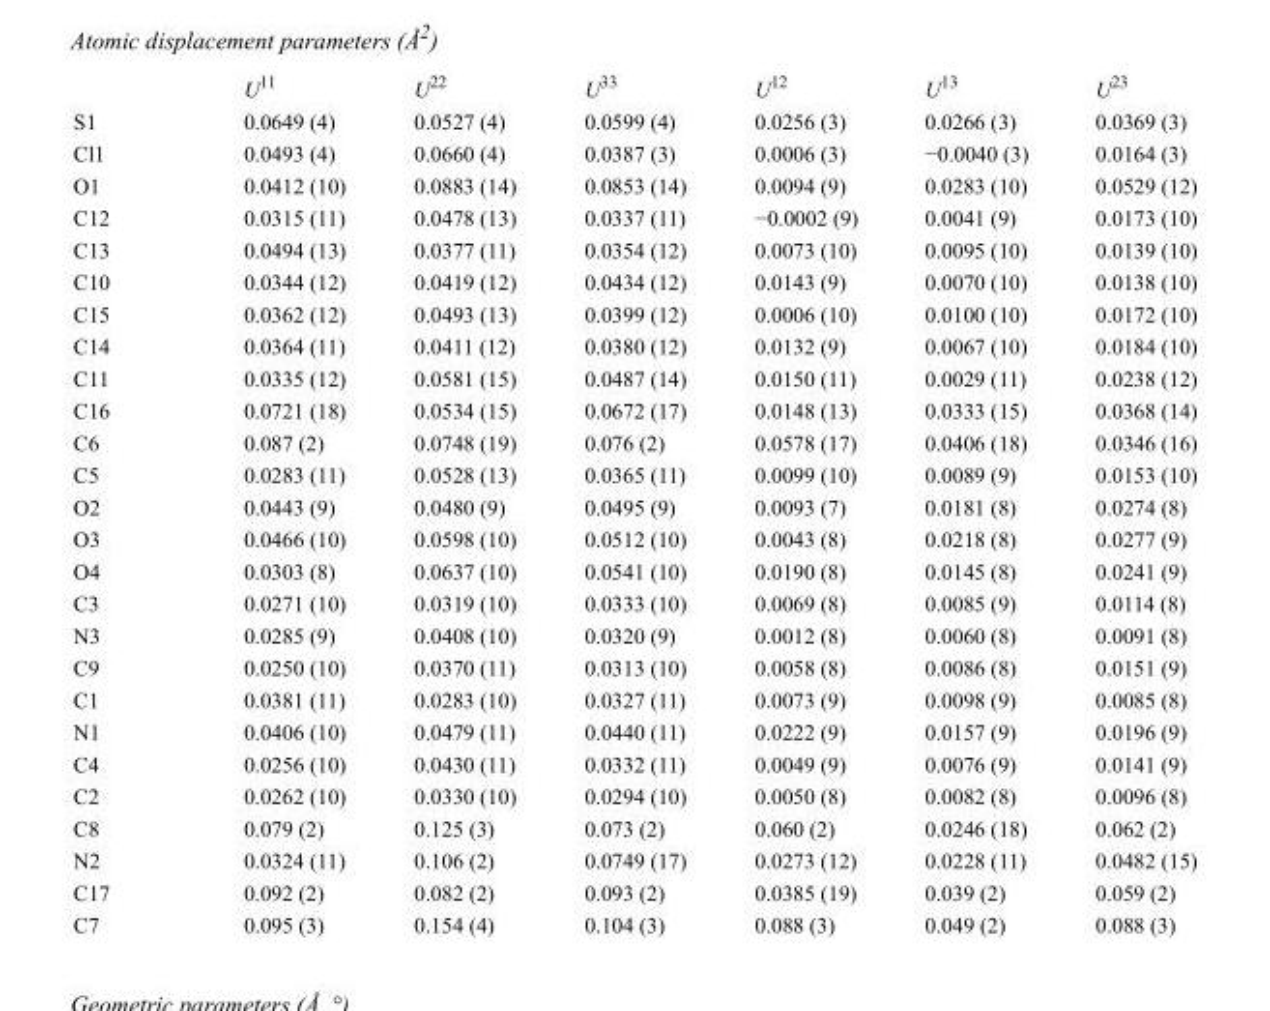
<table><thead><tr><td></td><td>U<sup>11</sup></td><td>U<sup>22</sup></td><td>U<sup>33</sup></td><td>U<sup>12</sup></td><td>U<sup>13</sup></td><td>U<sup>23</sup></td></tr></thead><tbody><tr><td>S1</td><td>0.0649 (4)</td><td>0.0527 (4)</td><td>0.0599 (4)</td><td>0.0256 (3)</td><td>0.0266 (3)</td><td>0.0369 (3)</td></tr><tr><td>Cl1</td><td>0.0493 (4)</td><td>0.0660 (4)</td><td>0.0387 (3)</td><td>0.0006 (3)</td><td>−0.0040 (3)</td><td>0.0164 (3)</td></tr><tr><td>O1</td><td>0.0412 (10)</td><td>0.0883 (14)</td><td>0.0853 (14)</td><td>0.0094 (9)</td><td>0.0283 (10)</td><td>0.0529 (12)</td></tr><tr><td>C12</td><td>0.0315 (11)</td><td>0.0478 (13)</td><td>0.0337 (11)</td><td>−0.0002 (9)</td><td>0.0041 (9)</td><td>0.0173 (10)</td></tr><tr><td>C13</td><td>0.0494 (13)</td><td>0.0377 (11)</td><td>0.0354 (12)</td><td>0.0073 (10)</td><td>0.0095 (10)</td><td>0.0139 (10)</td></tr><tr><td>C10</td><td>0.0344 (12)</td><td>0.0419 (12)</td><td>0.0434 (12)</td><td>0.0143 (9)</td><td>0.0070 (10)</td><td>0.0138 (10)</td></tr><tr><td>C15</td><td>0.0362 (12)</td><td>0.0493 (13)</td><td>0.0399 (12)</td><td>0.0006 (10)</td><td>0.0100 (10)</td><td>0.0172 (10)</td></tr><tr><td>C14</td><td>0.0364 (11)</td><td>0.0411 (12)</td><td>0.0380 (12)</td><td>0.0132 (9)</td><td>0.0067 (10)</td><td>0.0184 (10)</td></tr><tr><td>C11</td><td>0.0335 (12)</td><td>0.0581 (15)</td><td>0.0487 (14)</td><td>0.0150 (11)</td><td>0.0029 (11)</td><td>0.0238 (12)</td></tr><tr><td>C16</td><td>0.0721 (18)</td><td>0.0534 (15)</td><td>0.0672 (17)</td><td>0.0148 (13)</td><td>0.0333 (15)</td><td>0.0368 (14)</td></tr><tr><td>C6</td><td>0.087 (2)</td><td>0.0748 (19)</td><td>0.076 (2)</td><td>0.0578 (17)</td><td>0.0406 (18)</td><td>0.0346 (16)</td></tr><tr><td>C5</td><td>0.0283 (11)</td><td>0.0528 (13)</td><td>0.0365 (11)</td><td>0.0099 (10)</td><td>0.0089 (9)</td><td>0.0153 (10)</td></tr><tr><td>O2</td><td>0.0443 (9)</td><td>0.0480 (9)</td><td>0.0495 (9)</td><td>0.0093 (7)</td><td>0.0181 (8)</td><td>0.0274 (8)</td></tr><tr><td>O3</td><td>0.0466 (10)</td><td>0.0598 (10)</td><td>0.0512 (10)</td><td>0.0043 (8)</td><td>0.0218 (8)</td><td>0.0277 (9)</td></tr><tr><td>O4</td><td>0.0303 (8)</td><td>0.0637 (10)</td><td>0.0541 (10)</td><td>0.0190 (8)</td><td>0.0145 (8)</td><td>0.0241 (9)</td></tr><tr><td>C3</td><td>0.0271 (10)</td><td>0.0319 (10)</td><td>0.0333 (10)</td><td>0.0069 (8)</td><td>0.0085 (9)</td><td>0.0114 (8)</td></tr><tr><td>N3</td><td>0.0285 (9)</td><td>0.0408 (10)</td><td>0.0320 (9)</td><td>0.0012 (8)</td><td>0.0060 (8)</td><td>0.0091 (8)</td></tr><tr><td>C9</td><td>0.0250 (10)</td><td>0.0370 (11)</td><td>0.0313 (10)</td><td>0.0058 (8)</td><td>0.0086 (8)</td><td>0.0151 (9)</td></tr><tr><td>C1</td><td>0.0381 (11)</td><td>0.0283 (10)</td><td>0.0327 (11)</td><td>0.0073 (9)</td><td>0.0098 (9)</td><td>0.0085 (8)</td></tr><tr><td>N1</td><td>0.0406 (10)</td><td>0.0479 (11)</td><td>0.0440 (11)</td><td>0.0222 (9)</td><td>0.0157 (9)</td><td>0.0196 (9)</td></tr><tr><td>C4</td><td>0.0256 (10)</td><td>0.0430 (11)</td><td>0.0332 (11)</td><td>0.0049 (9)</td><td>0.0076 (9)</td><td>0.0141 (9)</td></tr><tr><td>C2</td><td>0.0262 (10)</td><td>0.0330 (10)</td><td>0.0294 (10)</td><td>0.0050 (8)</td><td>0.0082 (8)</td><td>0.0096 (8)</td></tr><tr><td>C8</td><td>0.079 (2)</td><td>0.125 (3)</td><td>0.073 (2)</td><td>0.060 (2)</td><td>0.0246 (18)</td><td>0.062 (2)</td></tr><tr><td>N2</td><td>0.0324 (11)</td><td>0.106 (2)</td><td>0.0749 (17)</td><td>0.0273 (12)</td><td>0.0228 (11)</td><td>0.0482 (15)</td></tr><tr><td>C17</td><td>0.092 (2)</td><td>0.082 (2)</td><td>0.093 (2)</td><td>0.0385 (19)</td><td>0.039 (2)</td><td>0.059 (2)</td></tr><tr><td>C7</td><td>0.095 (3)</td><td>0.154 (4)</td><td>0.104 (3)</td><td>0.088 (3)</td><td>0.049 (2)</td><td>0.088 (3)</td></tr></tbody></table>